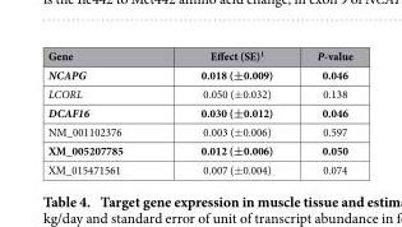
<table><thead><tr><td>Gene</td><td>Effect (SE)<sup>1</sup></td><td>P-value</td></tr></thead><tbody><tr><td>NCAPG</td><td>0.018 (±0.009)</td><td>0.046</td></tr><tr><td>LCORL</td><td>0.050 (± 0.032)</td><td>0.138</td></tr><tr><td>DCAF16</td><td>0.030 (±0.012)</td><td>0.046</td></tr><tr><td>NM_001102376</td><td>0.003 (± 0.006)</td><td>0.597</td></tr><tr><td>XM_005207785</td><td>0.012 (±0.006)</td><td>0.050</td></tr><tr><td>XM_015471561</td><td>0.007 (± 0.004)</td><td>0.074</td></tr></tbody></table>